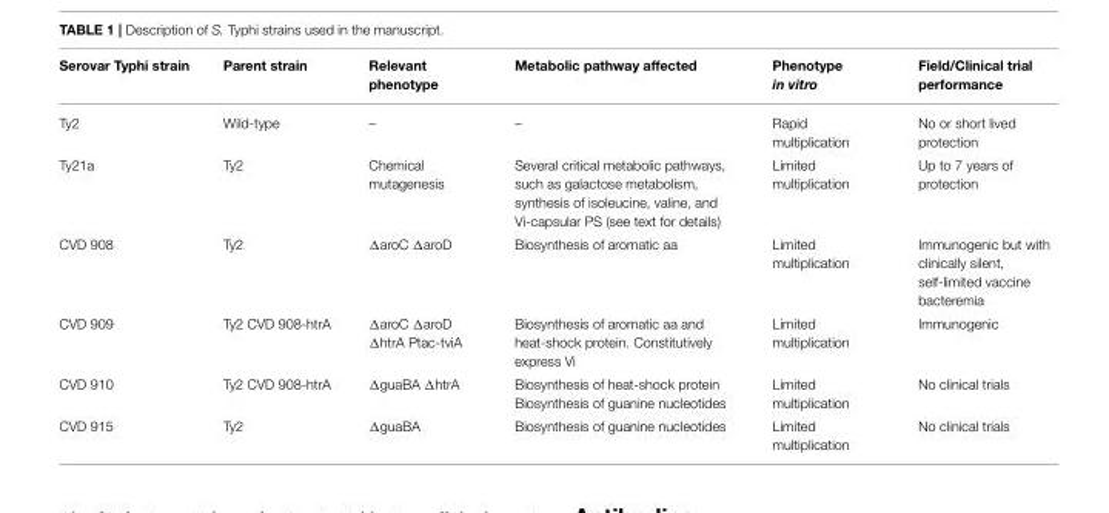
<table><thead><tr><td>Serovar Typhi strain</td><td>Parent strain</td><td>Relevant phenotype</td><td>Metabolic pathway affected</td><td>Phenotype in vitro</td><td>Field/Clinical trial performance</td></tr></thead><tbody><tr><td>Ty2</td><td>Wild-type</td><td>–</td><td>–</td><td>Rapid multiplication</td><td>No or short lived protection</td></tr><tr><td>Ty21a</td><td>Ty2</td><td>Chemical mutagenesis</td><td>Several critical metabolic pathways, such as galactose metabolism, synthesis of isoleucine, valine, and Vi-capsular PS (see text for details)</td><td>Limited multiplication</td><td>Up to 7 years of protection</td></tr><tr><td>CVD 908</td><td>Ty2</td><td>ΔaroC ΔaroD</td><td>Biosynthesis of aromatic aa</td><td>Limited multiplication</td><td>Immunogenic but with clinically silent, self-limited vaccine bacteremia</td></tr><tr><td>CVD 909</td><td>Ty2 CVD 908-htrA</td><td>ΔaroC ΔaroD ΔhtrA Ptac-tviA</td><td>Biosynthesis of aromatic aa and heat-shock protein. Constitutively express Vi</td><td>Limited multiplication</td><td>Immunogenic</td></tr><tr><td>CVD 910</td><td>Ty2 CVD 908-htrA</td><td>ΔguaBA ΔhtrA</td><td>Biosynthesis of heat-shock protein Biosynthesis of guanine nucleotides</td><td>Limited multiplication</td><td>No clinical trials</td></tr><tr><td>CVD 915</td><td>Ty2</td><td>ΔguaBA</td><td>Biosynthesis of guanine nucleotides</td><td>Limited multiplication</td><td>No clinical trials</td></tr></tbody></table>